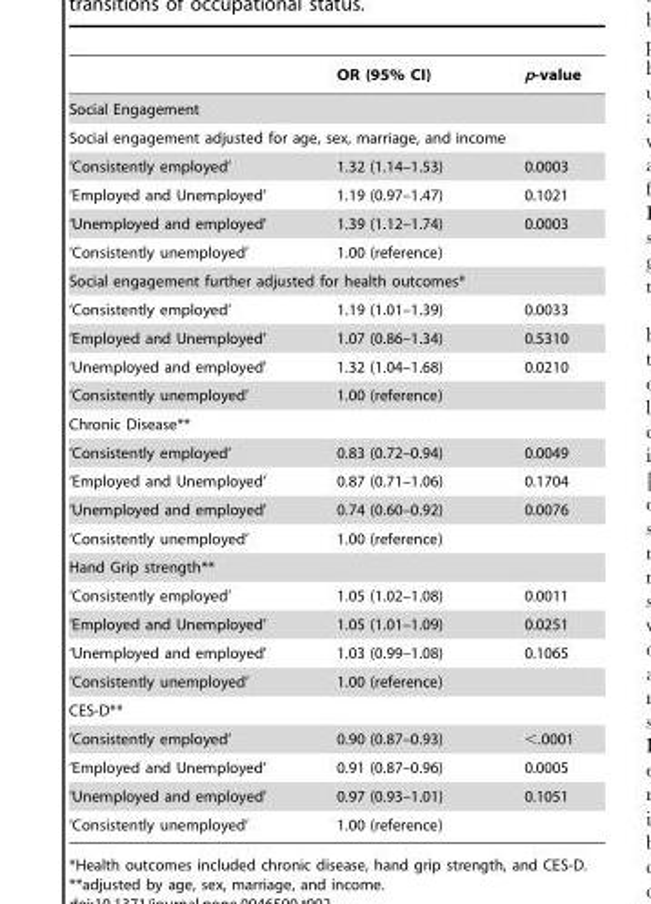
<table><thead><tr><td></td><td>OR (95% CI)</td><td>p-value</td></tr></thead><tbody><tr><td colspan="3">Social Engagement</td></tr><tr><td colspan="3">Social engagement adjusted for age, sex, marriage, and income</td></tr><tr><td>‘Consistently employed’</td><td>1.32 (1.14–1.53)</td><td>0.0003</td></tr><tr><td>‘Employed and Unemployed’</td><td>1.19 (0.97–1.47)</td><td>0.1021</td></tr><tr><td>‘Unemployed and employed’</td><td>1.39 (1.12–1.74)</td><td>0.0003</td></tr><tr><td>‘Consistently unemployed’</td><td colspan="2">1.00 (reference)</td></tr><tr><td colspan="3">Social engagement further adjusted for health outcomes*</td></tr><tr><td>‘Consistently employed’</td><td>1.19 (1.01–1.39)</td><td>0.0033</td></tr><tr><td>‘Employed and Unemployed’</td><td>1.07 (0.86–1.34)</td><td>0.5310</td></tr><tr><td>‘Unemployed and employed’</td><td>1.32 (1.04–1.68)</td><td>0.0210</td></tr><tr><td>‘Consistently unemployed’</td><td colspan="2">1.00 (reference)</td></tr><tr><td colspan="3">Chronic Disease**</td></tr><tr><td>‘Consistently employed’</td><td>0.83 (0.72–0.94)</td><td>0.0049</td></tr><tr><td>‘Employed and Unemployed’</td><td>0.87 (0.71–1.06)</td><td>0.1704</td></tr><tr><td>‘Unemployed and employed’</td><td>0.74 (0.60–0.92)</td><td>0.0076</td></tr><tr><td>‘Consistently unemployed’</td><td colspan="2">1.00 (reference)</td></tr><tr><td colspan="3">Hand Grip strength**</td></tr><tr><td>‘Consistently employed’</td><td>1.05 (1.02–1.08)</td><td>0.0011</td></tr><tr><td>‘Employed and Unemployed’</td><td>1.05 (1.01–1.09)</td><td>0.0251</td></tr><tr><td>‘Unemployed and employed’</td><td>1.03 (0.99–1.08)</td><td>0.1065</td></tr><tr><td>‘Consistently unemployed’</td><td colspan="2">1.00 (reference)</td></tr><tr><td colspan="3">CES-D**</td></tr><tr><td>‘Consistently employed’</td><td>0.90 (0.87–0.93)</td><td>&lt;.0001</td></tr><tr><td>‘Employed and Unemployed’</td><td>0.91 (0.87–0.96)</td><td>0.0005</td></tr><tr><td>‘Unemployed and employed’</td><td>0.97 (0.93–1.01)</td><td>0.1051</td></tr><tr><td>‘Consistently unemployed’</td><td colspan="2">1.00 (reference)</td></tr></tbody></table>